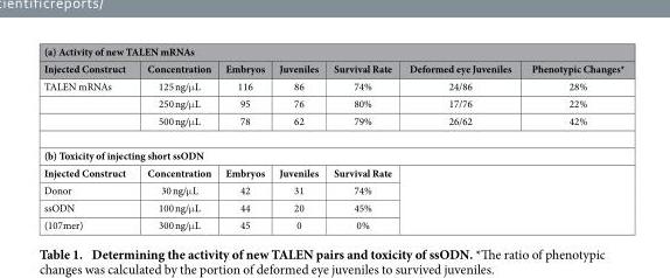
<table><thead><tr><td colspan="7">(a) Activity of new TALEN mRNAs</td></tr><tr><td>Injected Construct</td><td>Concentration</td><td>Embryos</td><td>Juveniles</td><td>Survival Rate</td><td>Deformed eye Juveniles</td><td>Phenotypic Changes*</td></tr></thead><tbody><tr><td rowspan="3">TALEN mRNAs</td><td>125 ng/μ L</td><td>116</td><td>86</td><td>74%</td><td>24/86</td><td>28%</td></tr><tr><td>250 ng/μ L</td><td>95</td><td>76</td><td>80%</td><td>17/76</td><td>22%</td></tr><tr><td>500 ng/μ L</td><td>78</td><td>62</td><td>79%</td><td>26/62</td><td>42%</td></tr><tr><td colspan="7">(b) Toxicity of injecting short ssODN</td></tr><tr><td>Injected Construct</td><td>Concentration</td><td>Embryos</td><td>Juveniles</td><td>Survival Rate</td><td rowspan="4" colspan="2"></td></tr><tr><td>Donor</td><td>30 ng/μ L</td><td>42</td><td>31</td><td>74%</td></tr><tr><td>ssODN</td><td>100 ng/μ L</td><td>44</td><td>20</td><td>45%</td></tr><tr><td>(107mer)</td><td>300 ng/μ L</td><td>45</td><td>0</td><td>0%</td></tr></tbody></table>